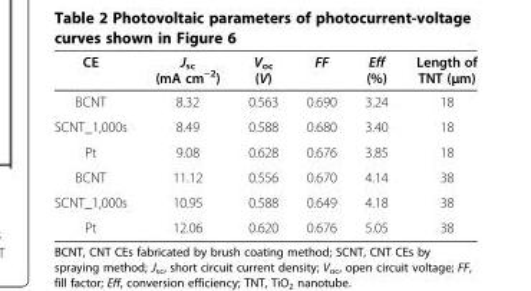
<table><thead><tr><td>CE</td><td>J<sub>sc</sub> (mA cm<sup>−2</sup>)</td><td>V<sub>oc</sub> (V)</td><td>FF</td><td>Eff (%)</td><td>Length of TNT (μm)</td></tr></thead><tbody><tr><td>BCNT</td><td>8.32</td><td>0.563</td><td>0.690</td><td>3.24</td><td>18</td></tr><tr><td>SCNT_1,000s</td><td>8.49</td><td>0.588</td><td>0.680</td><td>3.40</td><td>18</td></tr><tr><td>Pt</td><td>9.08</td><td>0.628</td><td>0.676</td><td>3.85</td><td>18</td></tr><tr><td>BCNT</td><td>11.12</td><td>0.556</td><td>0.670</td><td>4.14</td><td>38</td></tr><tr><td>SCNT_1,000s</td><td>10.95</td><td>0.588</td><td>0.649</td><td>4.18</td><td>38</td></tr><tr><td>Pt</td><td>12.06</td><td>0.620</td><td>0.676</td><td>5.05</td><td>38</td></tr></tbody></table>